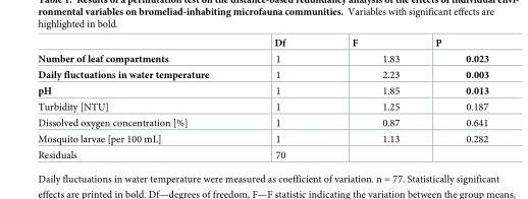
<table><thead><tr><td></td><td>Df</td><td>F</td><td>P</td></tr></thead><tbody><tr><td>Number of leaf compartments</td><td>1</td><td>1.83</td><td>0.023</td></tr><tr><td>Daily fluctuations in water temperature</td><td>1</td><td>2.23</td><td>0.003</td></tr><tr><td>pH</td><td>1</td><td>1.85</td><td>0.013</td></tr><tr><td>Turbidity [NTU]</td><td>1</td><td>1.25</td><td>0.187</td></tr><tr><td>Dissolved oxygen concentration [%]</td><td>1</td><td>0.87</td><td>0.641</td></tr><tr><td>Mosquito larvae [per 100 mL]</td><td>1</td><td>1.13</td><td>0.282</td></tr><tr><td>Residuals</td><td>70</td><td></td><td></td></tr></tbody></table>